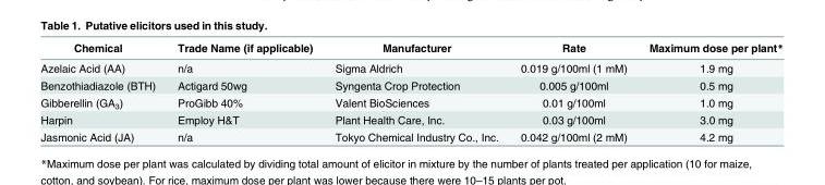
<table><thead><tr><td>Chemical</td><td>Trade Name (if applicable)</td><td>Manufacturer</td><td>Rate</td><td>Maximum dose per plant*</td></tr></thead><tbody><tr><td>Azelaic Acid (AA)</td><td>n/a</td><td>Sigma Aldrich</td><td>0.019 g/100ml (1 mM)</td><td>1.9 mg</td></tr><tr><td>Benzothiadiazole (BTH)</td><td>Actigard 50wg</td><td>Syngenta Crop Protection</td><td>0.005 g/100ml</td><td>0.5 mg</td></tr><tr><td>Gibberellin (GA<sub>3</sub>)</td><td>ProGibb 40%</td><td>Valent BioSciences</td><td>0.01 g/100ml</td><td>1.0 mg</td></tr><tr><td>Harpin</td><td>Employ H&amp;T</td><td>Plant Health Care, Inc.</td><td>0.03 g/100ml</td><td>3.0 mg</td></tr><tr><td>Jasmonic Acid (JA)</td><td>n/a</td><td>Tokyo Chemical Industry Co., Inc.</td><td>0.042 g/100ml (2 mM)</td><td>4.2 mg</td></tr></tbody></table>